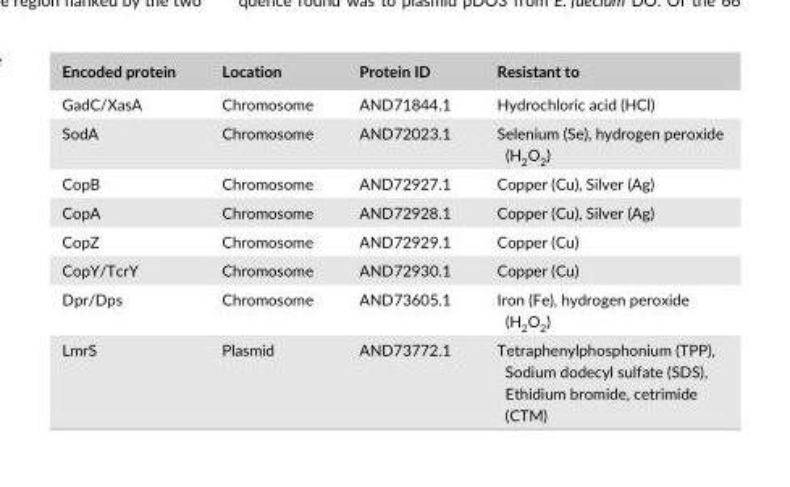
<table><thead><tr><td>Encoded protein</td><td>Location</td><td>Protein ID</td><td>Resistant to</td></tr></thead><tbody><tr><td>GadC/XasA</td><td>Chromosome</td><td>AND71844.1</td><td>Hydrochloric acid (HCl)</td></tr><tr><td>SodA</td><td>Chromosome</td><td>AND72023.1</td><td>Selenium (Se), hydrogen peroxide (H<sub>2</sub>O<sub>2</sub>)</td></tr><tr><td>CopB</td><td>Chromosome</td><td>AND72927.1</td><td>Copper (Cu), Silver (Ag)</td></tr><tr><td>CopA</td><td>Chromosome</td><td>AND72928.1</td><td>Copper (Cu), Silver (Ag)</td></tr><tr><td>CopZ</td><td>Chromosome</td><td>AND72929.1</td><td>Copper (Cu)</td></tr><tr><td>CopY/TcrY</td><td>Chromosome</td><td>AND72930.1</td><td>Copper (Cu)</td></tr><tr><td>Dpr/Dps</td><td>Chromosome</td><td>AND73605.1</td><td>Iron (Fe), hydrogen peroxide (H<sub>2</sub>O<sub>2</sub>)</td></tr><tr><td>LmrS</td><td>Plasmid</td><td>AND73772.1</td><td>Tetraphenylphosphonium (TPP), Sodium dodecyl sulfate (SDS), Ethidium bromide, cetrimide (CTM)</td></tr></tbody></table>